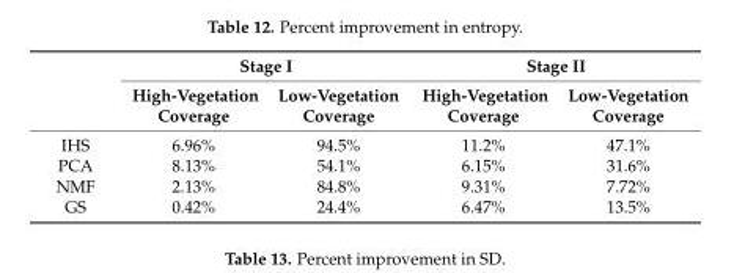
<table><thead><tr><td rowspan="2"></td><td colspan="2">Stage I</td><td colspan="2">Stage II</td></tr><tr><td>High-Vegetation Coverage</td><td>Low-Vegetation Coverage</td><td>High-Vegetation Coverage</td><td>Low-Vegetation Coverage</td></tr></thead><tbody><tr><td>IHS</td><td>6.96%</td><td>94.5%</td><td>11.2%</td><td>47.1%</td></tr><tr><td>PCA</td><td>8.13%</td><td>54.1%</td><td>6.15%</td><td>31.6%</td></tr><tr><td>NMF</td><td>2.13%</td><td>84.8%</td><td>9.31%</td><td>7.72%</td></tr><tr><td>GS</td><td>0.42%</td><td>24.4%</td><td>6.47%</td><td>13.5%</td></tr></tbody></table>